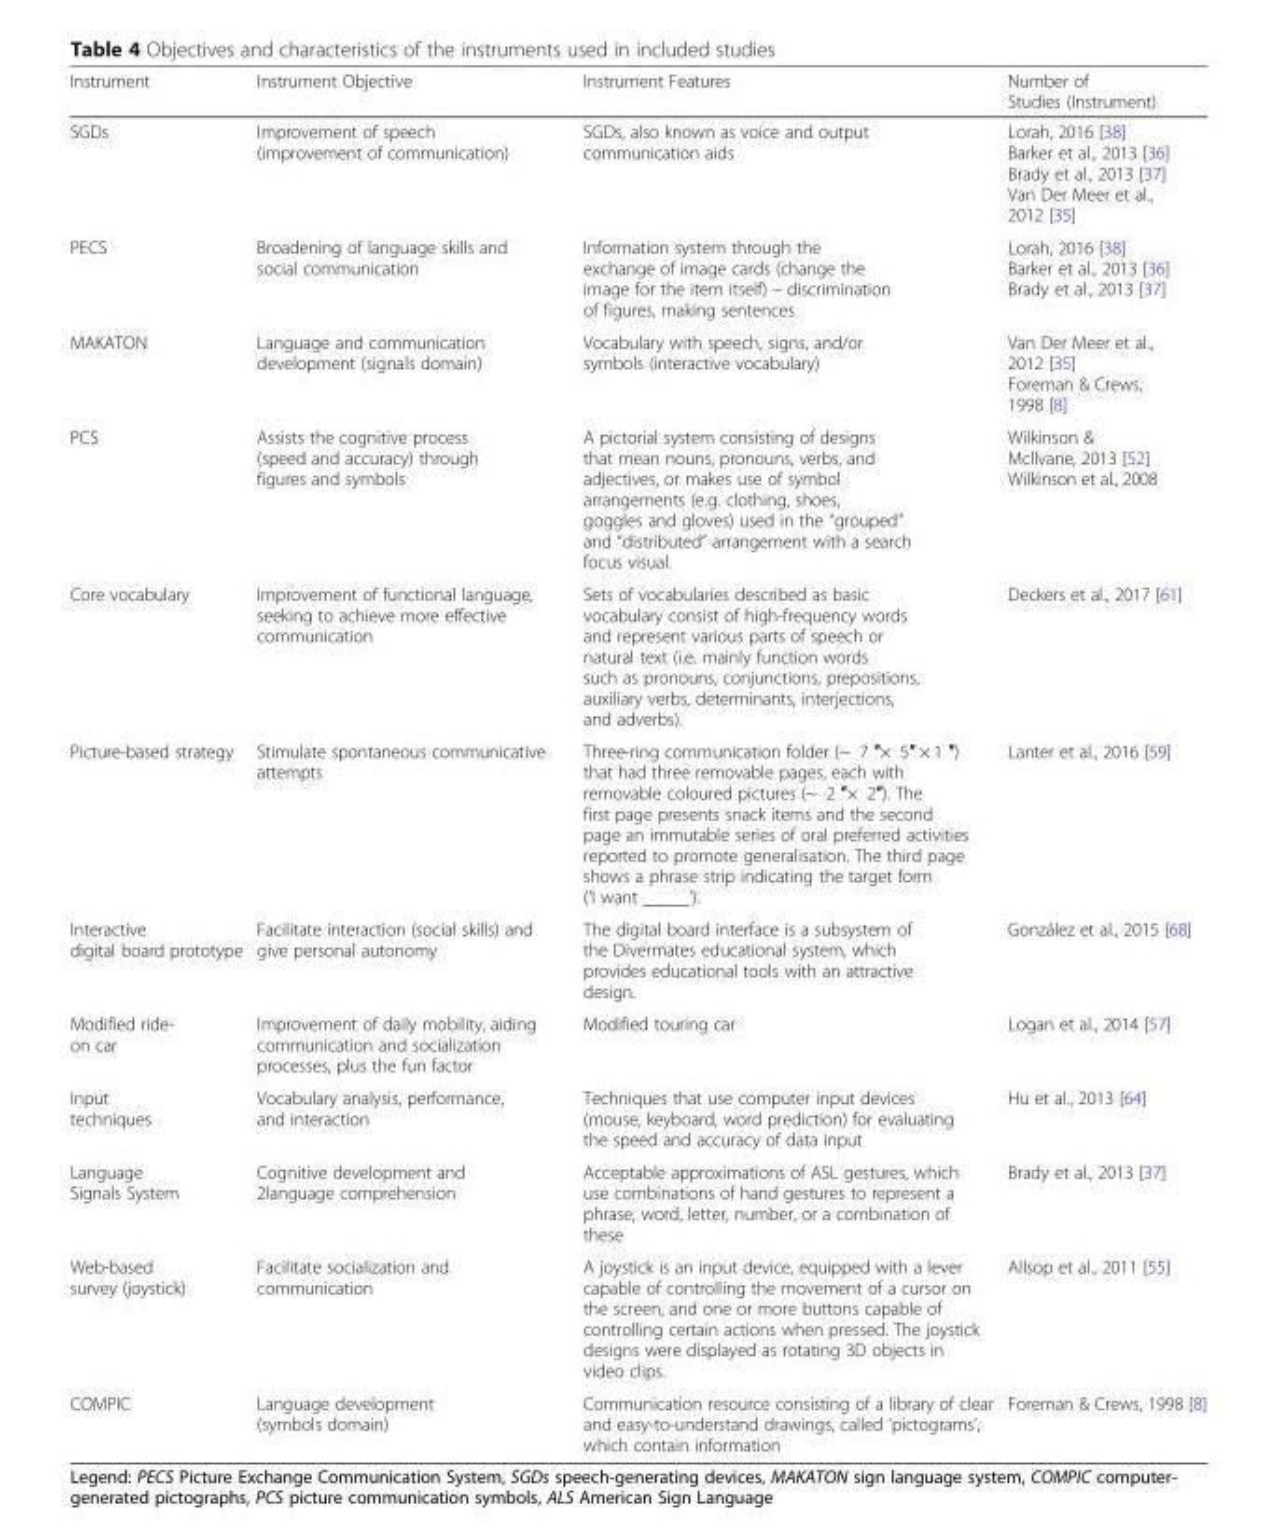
<table><thead><tr><td>Instrument</td><td>Instrument Objective</td><td>Instrument Features</td><td>Number of Studies (Instrument)</td></tr></thead><tbody><tr><td>SGDs</td><td>Improvement of speech (improvement of communication)</td><td>SGDs, also known as voice and output communication aids</td><td>Lorah, 2016 [38] Barker et al., 2013 [36] Brady et al., 2013 [37] Van Der Meer et al., 2012 [35]</td></tr><tr><td>PECS</td><td>Broadening of language skills and social communication</td><td>Information system through the exchange of image cards (change the image for the item itself) – discrimination of figures, making sentences</td><td>Lorah, 2016 [38] Barker et al., 2013 [36] Brady et al., 2013 [37]</td></tr><tr><td>MAKATON</td><td>Language and communication development (signals domain)</td><td>Vocabulary with speech, signs, and/or symbols (interactive vocabulary)</td><td>Van Der Meer et al., 2012 [35] Foreman &amp; Crews, 1998 [8]</td></tr><tr><td>PCS</td><td>Assists the cognitive process (speed and accuracy) through figures and symbols</td><td>A pictorial system consisting of designs that mean nouns, pronouns, verbs, and adjectives, or makes use of symbol arrangements (e.g. clothing, shoes, goggles and gloves) used in the “grouped” and “distributed” arrangement with a search focus visual.</td><td>Wilkinson &amp; Mcllvane, 2013 [52] Wilkinson et al., 2008</td></tr><tr><td>Core vocabulary</td><td>Improvement of functional language, seeking to achieve more effective communication</td><td>Sets of vocabularies described as basic vocabulary consist of high-frequency words and represent various parts of speech or natural text (i.e. mainly function words such as pronouns, conjunctions, prepositions, auxiliary verbs, determinants, interjections, and adverbs).</td><td>Deckers et al., 2017 [61]</td></tr><tr><td>Picture-based strategy</td><td>Stimulate spontaneous communicative attempts</td><td>Three-ring communication folder (~ 7 ″× 5″ × 1 ″) that had three removable pages, each with removable coloured pictures (~ 2 ″× 2″). The first page presents snack items and the second page an immutable series of oral preferred activities reported to promote generalisation. The third page shows a phrase strip indicating the target form (‘I want _____’).</td><td>Lanter et al., 2016 [59]</td></tr><tr><td>Interactive digital board prototype</td><td>Facilitate interaction (social skills) and give personal autonomy</td><td>The digital board interface is a subsystem of the Divermates educational system, which provides educational tools with an attractive design.</td><td>González et al., 2015 [68]</td></tr><tr><td>Modified ride- on car</td><td>Improvement of daily mobility, aiding communication and socialization processes, plus the fun factor</td><td>Modified touring car</td><td>Logan et al., 2014 [57]</td></tr><tr><td>Input techniques</td><td>Vocabulary analysis, performance, and interaction</td><td>Techniques that use computer input devices (mouse, keyboard, word prediction) for evaluating the speed and accuracy of data input</td><td>Hu et al., 2013 [64]</td></tr><tr><td>Language Signals System</td><td>Cognitive development and 2language comprehension</td><td>Acceptable approximations of ASL gestures, which use combinations of hand gestures to represent a phrase, word, letter, number, or a combination of these</td><td>Brady et al., 2013 [37]</td></tr><tr><td>Web-based survey (joystick)</td><td>Facilitate socialization and communication</td><td>A joystick is an input device, equipped with a lever capable of controlling the movement of a cursor on the screen, and one or more buttons capable of controlling certain actions when pressed. The joystick designs were displayed as rotating 3D objects in video clips.</td><td>Allsop et al., 2011 [55]</td></tr><tr><td>COMPIC</td><td>Language development (symbols domain)</td><td>Communication resource consisting of a library of clear and easy-to-understand drawings, called ‘pictograms’, which contain information</td><td>Foreman &amp; Crews, 1998 [8]</td></tr></tbody></table>